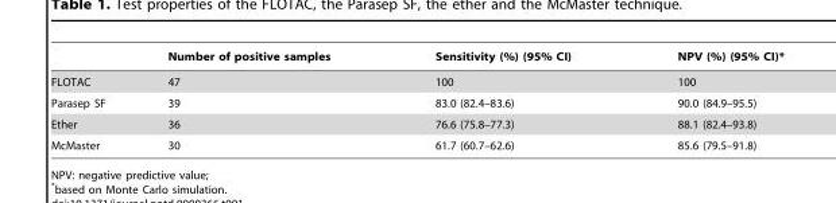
<table><thead><tr><td></td><td>Number of positive samples</td><td>Sensitivity (%) (95% CI)</td><td>NPV (%) (95% CI)*</td></tr></thead><tbody><tr><td>FLOTAC</td><td>47</td><td>100</td><td>100</td></tr><tr><td>Parasep SF</td><td>39</td><td>83.0 (82.4–83.6)</td><td>90.0 (84.9–95.5)</td></tr><tr><td>Ether</td><td>36</td><td>76.6 (75.8–77.3)</td><td>88.1 (82.4–93.8)</td></tr><tr><td>McMaster</td><td>30</td><td>61.7 (60.7–62.6)</td><td>85.6 (79.5–91.8)</td></tr></tbody></table>